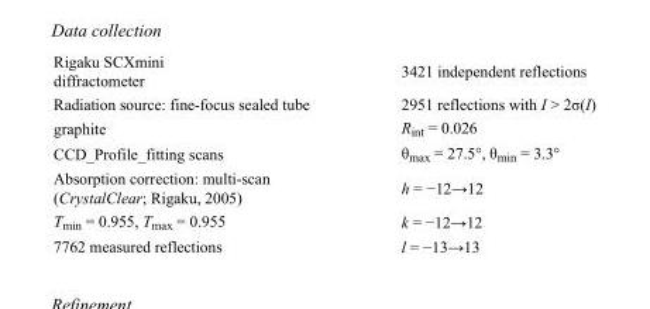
<table><tbody><tr><td>Rigaku SCXmini diffractometer</td><td>3421 independent reflections</td></tr><tr><td>Radiation source: fine-focus sealed tube</td><td>2951 reflections with I &gt; 2σ(I)</td></tr><tr><td>graphite</td><td>R<sub>int</sub> = 0.026</td></tr><tr><td>CCD_Profile_fitting scans</td><td>θ<sub>max</sub> = 27.5°, θ<sub>min</sub> = 3.3°</td></tr><tr><td>Absorption correction: multi-scan (CrystalClear; Rigaku, 2005)</td><td>h = −12→12</td></tr><tr><td>T<sub>min</sub> = 0.955, T<sub>max</sub> = 0.955</td><td>k = −12→12</td></tr><tr><td>7762 measured reflections</td><td>l = −13→13</td></tr></tbody></table>